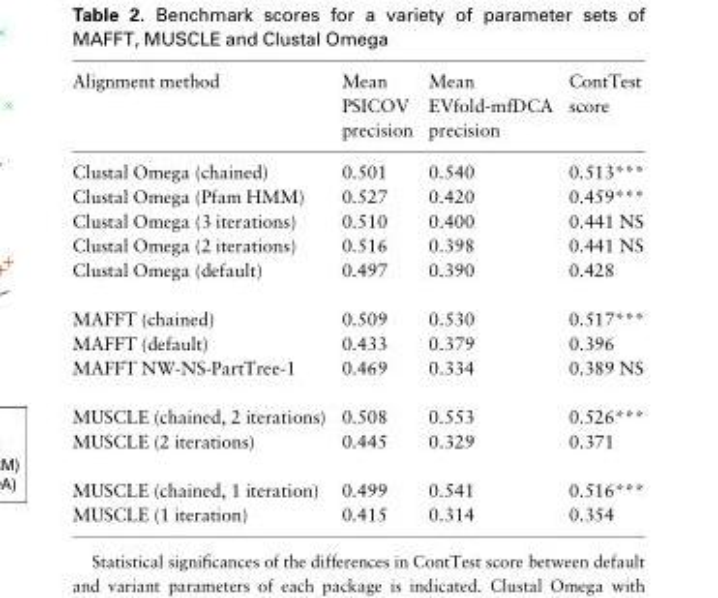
<table><thead><tr><td>Alignment method</td><td>Mean PSICOV precision</td><td>Mean EVfold-mfDCA precision</td><td>ContTest score</td></tr></thead><tbody><tr><td>Clustal Omega (chained)</td><td>0.501</td><td>0.540</td><td>0.513***</td></tr><tr><td>Clustal Omega (Pfam HMM)</td><td>0.527</td><td>0.420</td><td>0.459***</td></tr><tr><td>Clustal Omega (3 iterations)</td><td>0.510</td><td>0.400</td><td>0.441 NS</td></tr><tr><td>Clustal Omega (2 iterations)</td><td>0.516</td><td>0.398</td><td>0.441 NS</td></tr><tr><td>Clustal Omega (default)</td><td>0.497</td><td>0.390</td><td>0.428</td></tr><tr><td>MAFFT (chained)</td><td>0.509</td><td>0.530</td><td>0.517***</td></tr><tr><td>MAFFT (default)</td><td>0.433</td><td>0.379</td><td>0.396</td></tr><tr><td>MAFFT NW-NS-PartTree-1</td><td>0.469</td><td>0.334</td><td>0.389 NS</td></tr><tr><td>MUSCLE (chained, 2 iterations)</td><td>0.508</td><td>0.553</td><td>0.526***</td></tr><tr><td>MUSCLE (2 iterations)</td><td>0.445</td><td>0.329</td><td>0.371</td></tr><tr><td>MUSCLE (chained, 1 iteration)</td><td>0.499</td><td>0.541</td><td>0.516***</td></tr><tr><td>MUSCLE (1 iteration)</td><td>0.415</td><td>0.314</td><td>0.354</td></tr></tbody></table>